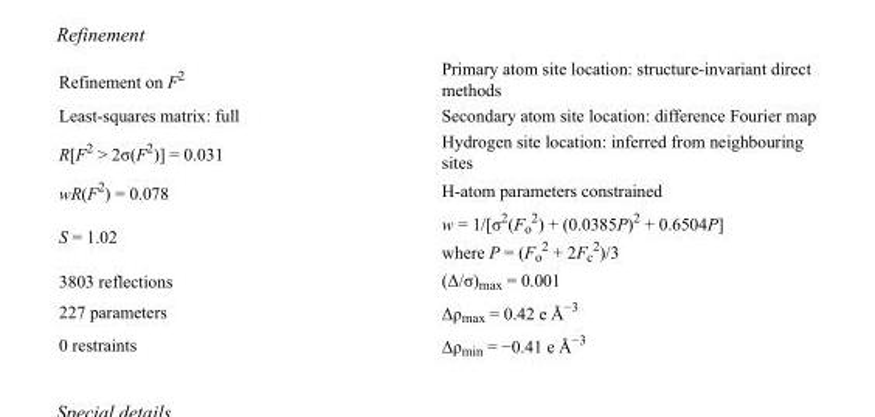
<table><tbody><tr><td>Refinement on F<sup>2</sup></td><td>Primary atom site location: structure-invariant direct methods</td></tr><tr><td>Least-squares matrix: full</td><td>Secondary atom site location: difference Fourier map</td></tr><tr><td>R[F<sup>2</sup> &gt; 2σ(F<sup>2</sup>)] = 0.031</td><td>Hydrogen site location: inferred from neighbouring sites</td></tr><tr><td>wR(F<sup>2</sup>) = 0.078</td><td>H-atom parameters constrained</td></tr><tr><td>S = 1.02</td><td>w = 1/[σ<sup>2</sup>(F<sub>o</sub> <sup>2</sup>) + (0.0385P)<sup>2</sup> + 0.6504P] where P = (F<sub>o</sub> <sup>2</sup> + 2F<sub>c</sub> <sup>2</sup>)/3</td></tr><tr><td>3803 reflections</td><td>(Δ/σ)<sub>max</sub> = 0.001</td></tr><tr><td>227 parameters</td><td>Δρ<sub>max</sub> = 0.42 e Å<sup>−3</sup></td></tr><tr><td>0 restraints</td><td>Δρ<sub>min</sub> = −0.41 e Å<sup>−3</sup></td></tr></tbody></table>